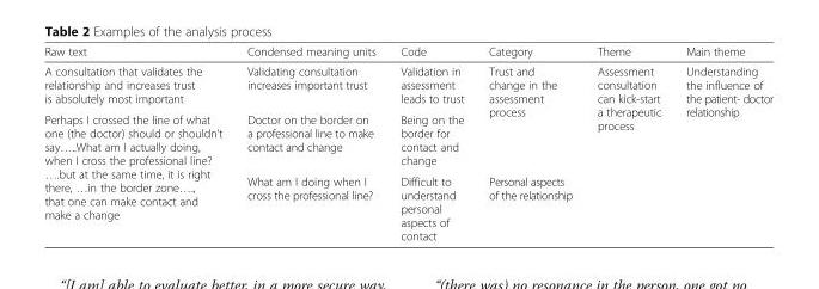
<table><thead><tr><td>Raw text</td><td>Condensed meaning units</td><td>Code</td><td>Category</td><td>Theme</td><td>Main theme</td></tr></thead><tbody><tr><td>A consultation that validates the relationship and increases trust is absolutely most important</td><td>Validating consultation increases important trust</td><td>Validation in assessment leads to trust</td><td rowspan="2">Trust and change in the assessment process</td><td rowspan="3">Assessment consultation can kick-start a therapeutic process</td><td rowspan="3">Understanding the influence of the patient- doctor relationship</td></tr><tr><td rowspan="2">Perhaps I crossed the line of what one (the doctor) should or shouldn’t say…..What am I actually doing, when I cross the professional line? ….but at the same time, it is right there, …in the border zone…., that one can make contact and make a change</td><td>Doctor on the border on a professional line to make contact and change</td><td>Being on the border for contact and change</td></tr><tr><td>What am I doing when I cross the professional line?</td><td>Difficult to understand personal aspects of contact</td><td>Personal aspects of the relationship</td></tr></tbody></table>